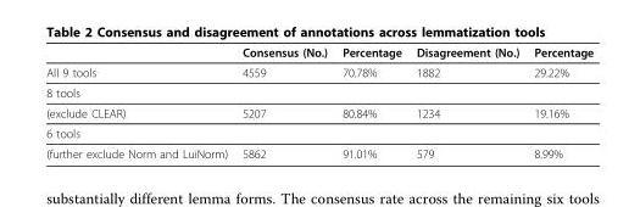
<table><thead><tr><td></td><td>Consensus (No.)</td><td>Percentage</td><td>Disagreement (No.)</td><td>Percentage</td></tr></thead><tbody><tr><td>All 9 tools</td><td>4559</td><td>70.78%</td><td>1882</td><td>29.22%</td></tr><tr><td colspan="5">8 tools</td></tr><tr><td>(exclude CLEAR)</td><td>5207</td><td>80.84%</td><td>1234</td><td>19.16%</td></tr><tr><td colspan="5">6 tools</td></tr><tr><td>(further exclude Norm and LuiNorm)</td><td>5862</td><td>91.01%</td><td>579</td><td>8.99%</td></tr></tbody></table>